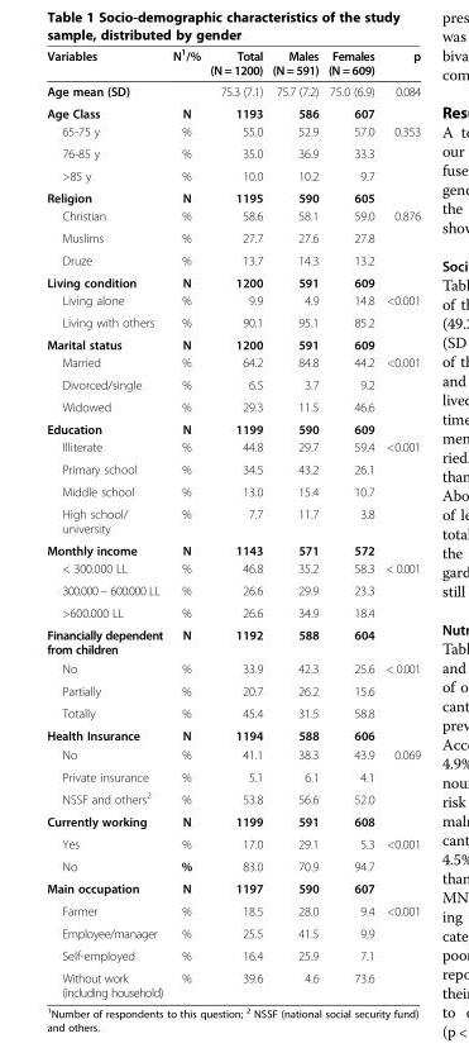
<table><thead><tr><td>Variables</td><td>N<sup>1</sup>/%</td><td>Total (N = 1200)</td><td>Males (N = 591)</td><td>Females (N = 609)</td><td>p</td></tr></thead><tbody><tr><td>Age mean (SD)</td><td></td><td>75.3 (7.1)</td><td>75.7 (7.2)</td><td>75.0 (6.9)</td><td>0.084</td></tr><tr><td>Age Class</td><td>N</td><td>1193</td><td>586</td><td>607</td><td></td></tr><tr><td>65-75 y</td><td>%</td><td>55.0</td><td>52.9</td><td>57.0</td><td>0.353</td></tr><tr><td>76-85 y</td><td>%</td><td>35.0</td><td>36.9</td><td>33.3</td><td></td></tr><tr><td>&gt;85 y</td><td>%</td><td>10.0</td><td>10.2</td><td>9.7</td><td></td></tr><tr><td>Religion</td><td>N</td><td>1195</td><td>590</td><td>605</td><td></td></tr><tr><td>Christian</td><td>%</td><td>58.6</td><td>58.1</td><td>59.0</td><td>0.876</td></tr><tr><td>Muslims</td><td>%</td><td>27.7</td><td>27.6</td><td>27.8</td><td></td></tr><tr><td>Druze</td><td>%</td><td>13.7</td><td>14.3</td><td>13.2</td><td></td></tr><tr><td>Living condition</td><td>N</td><td>1200</td><td>591</td><td>609</td><td></td></tr><tr><td>Living alone</td><td>%</td><td>9.9</td><td>4.9</td><td>14.8</td><td>&lt;0.001</td></tr><tr><td>Living with others</td><td>%</td><td>90.1</td><td>95.1</td><td>85.2</td><td></td></tr><tr><td>Marital status</td><td>N</td><td>1200</td><td>591</td><td>609</td><td></td></tr><tr><td>Married</td><td>%</td><td>64.2</td><td>84.8</td><td>44.2</td><td>&lt;0.001</td></tr><tr><td>Divorced/single</td><td>%</td><td>6.5</td><td>3.7</td><td>9.2</td><td></td></tr><tr><td>Widowed</td><td>%</td><td>29.3</td><td>11.5</td><td>46.6</td><td></td></tr><tr><td>Education</td><td>N</td><td>1199</td><td>590</td><td>609</td><td></td></tr><tr><td>Illiterate</td><td>%</td><td>44.8</td><td>29.7</td><td>59.4</td><td>&lt;0.001</td></tr><tr><td>Primary school</td><td>%</td><td>34.5</td><td>43.2</td><td>26.1</td><td></td></tr><tr><td>Middle school</td><td>%</td><td>13.0</td><td>15.4</td><td>10.7</td><td></td></tr><tr><td>High school/ university</td><td>%</td><td>7.7</td><td>11.7</td><td>3.8</td><td></td></tr><tr><td>Monthly income</td><td>N</td><td>1143</td><td>571</td><td>572</td><td></td></tr><tr><td>&lt; 300.000 LL</td><td>%</td><td>46.8</td><td>35.2</td><td>58.3</td><td>&lt; 0.001</td></tr><tr><td>300.000 – 600.000 LL</td><td>%</td><td>26.6</td><td>29.9</td><td>23.3</td><td></td></tr><tr><td>&gt;600.000 LL</td><td>%</td><td>26.6</td><td>34.9</td><td>18.4</td><td></td></tr><tr><td>Financially dependent from children</td><td>N</td><td>1192</td><td>588</td><td>604</td><td></td></tr><tr><td>No</td><td>%</td><td>33.9</td><td>42.3</td><td>25.6</td><td>&lt; 0.001</td></tr><tr><td>Partially</td><td>%</td><td>20.7</td><td>26.2</td><td>15.6</td><td></td></tr><tr><td>Totally</td><td>%</td><td>45.4</td><td>31.5</td><td>58.8</td><td></td></tr><tr><td>Health Insurance</td><td>N</td><td>1194</td><td>588</td><td>606</td><td></td></tr><tr><td>No</td><td>%</td><td>41.1</td><td>38.3</td><td>43.9</td><td>0.069</td></tr><tr><td>Private insurance</td><td>%</td><td>5.1</td><td>6.1</td><td>4.1</td><td></td></tr><tr><td>NSSF and others<sup>2</sup></td><td>%</td><td>53.8</td><td>56.6</td><td>52.0</td><td></td></tr><tr><td>Currently working</td><td>N</td><td>1199</td><td>591</td><td>608</td><td></td></tr><tr><td>Yes</td><td>%</td><td>17.0</td><td>29.1</td><td>5.3</td><td>&lt;0.001</td></tr><tr><td>No</td><td>%</td><td>83.0</td><td>70.9</td><td>94.7</td><td></td></tr><tr><td>Main occupation</td><td>N</td><td>1197</td><td>590</td><td>607</td><td></td></tr><tr><td>Farmer</td><td>%</td><td>18.5</td><td>28.0</td><td>9.4</td><td>&lt;0.001</td></tr><tr><td>Employee/manager</td><td>%</td><td>25.5</td><td>41.5</td><td>9.9</td><td></td></tr><tr><td>Self-employed</td><td>%</td><td>16.4</td><td>25.9</td><td>7.1</td><td></td></tr><tr><td>Without work (including household)</td><td>%</td><td>39.6</td><td>4.6</td><td>73.6</td><td></td></tr></tbody></table>